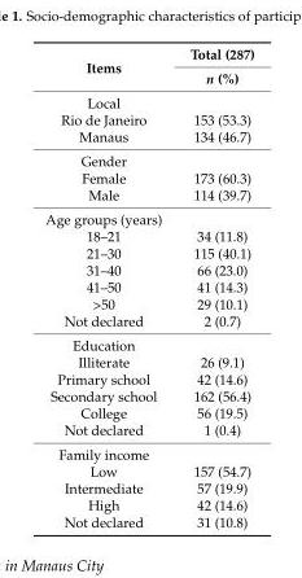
<table><thead><tr><td rowspan="2">Items</td><td rowspan="2">Total (287) n (%)</td></tr><tr></tr></thead><tbody><tr><td colspan="2">Local</td></tr><tr><td>Rio de Janeiro</td><td>153 (53.3)</td></tr><tr><td>Manaus</td><td>134 (46.7)</td></tr><tr><td colspan="2">Gender</td></tr><tr><td>Female</td><td>173 (60.3)</td></tr><tr><td>Male</td><td>114 (39.7)</td></tr><tr><td colspan="2">Age groups (years)</td></tr><tr><td>18–21</td><td>34 (11.8)</td></tr><tr><td>21–30</td><td>115 (40.1)</td></tr><tr><td>31–40</td><td>66 (23.0)</td></tr><tr><td>41–50</td><td>41 (14.3)</td></tr><tr><td>&gt;50</td><td>29 (10.1)</td></tr><tr><td>Not declared</td><td>2 (0.7)</td></tr><tr><td colspan="2">Education</td></tr><tr><td>Illiterate</td><td>26 (9.1)</td></tr><tr><td>Primary school</td><td>42 (14.6)</td></tr><tr><td>Secondary school</td><td>162 (56.4)</td></tr><tr><td>College</td><td>56 (19.5)</td></tr><tr><td>Not declared</td><td>1 (0.4)</td></tr><tr><td colspan="2">Family income</td></tr><tr><td>Low</td><td>157 (54.7)</td></tr><tr><td>Intermediate</td><td>57 (19.9)</td></tr><tr><td>High</td><td>42 (14.6)</td></tr><tr><td>Not declared</td><td>31 (10.8)</td></tr></tbody></table>